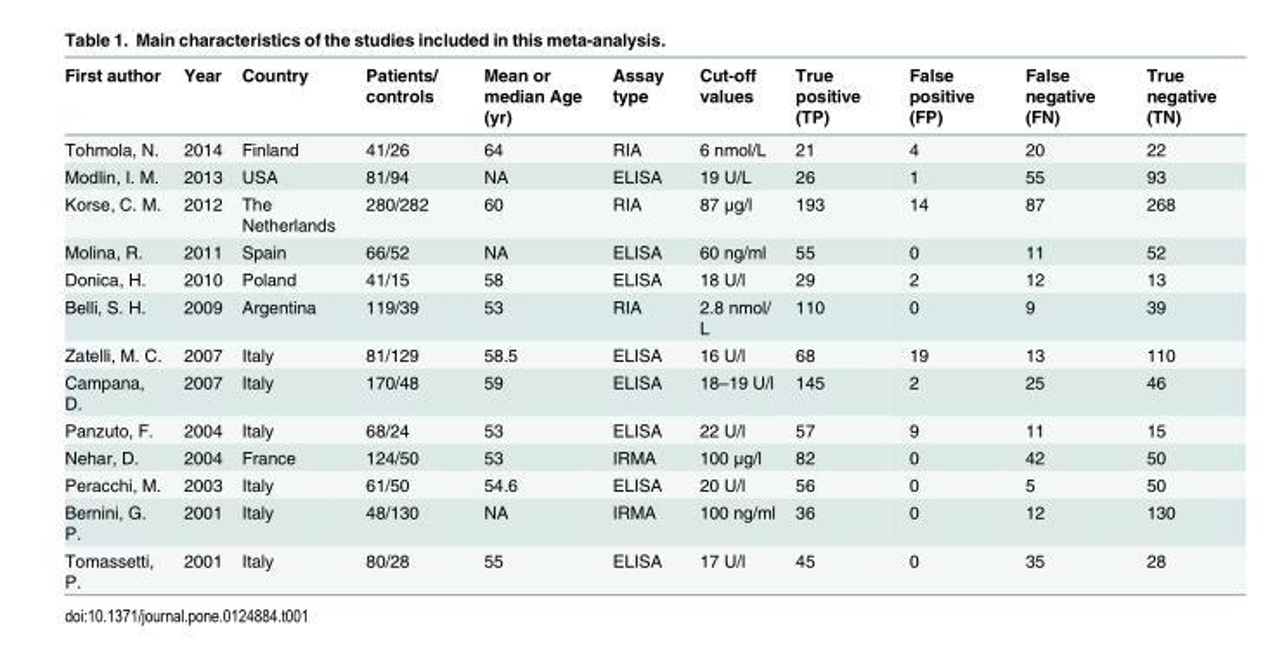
<table><thead><tr><td>First author</td><td>Year</td><td>Country</td><td>Patients/ controls</td><td>Mean or median Age (yr)</td><td>Assay type</td><td>Cut-off values</td><td>True positive (TP)</td><td>False positive (FP)</td><td>False negative (FN)</td><td>True negative (TN)</td></tr></thead><tbody><tr><td>Tohmola, N.</td><td>2014</td><td>Finland</td><td>41/26</td><td>64</td><td>RIA</td><td>6 nmol/L</td><td>21</td><td>4</td><td>20</td><td>22</td></tr><tr><td>Modlin, I. M.</td><td>2013</td><td>USA</td><td>81/94</td><td>NA</td><td>ELISA</td><td>19 U/L</td><td>26</td><td>1</td><td>55</td><td>93</td></tr><tr><td>Korse, C. M.</td><td>2012</td><td>The Netherlands</td><td>280/282</td><td>60</td><td>RIA</td><td>87 μg/l</td><td>193</td><td>14</td><td>87</td><td>268</td></tr><tr><td>Molina, R.</td><td>2011</td><td>Spain</td><td>66/52</td><td>NA</td><td>ELISA</td><td>60 ng/ml</td><td>55</td><td>0</td><td>11</td><td>52</td></tr><tr><td>Donica, H.</td><td>2010</td><td>Poland</td><td>41/15</td><td>58</td><td>ELISA</td><td>18 U/l</td><td>29</td><td>2</td><td>12</td><td>13</td></tr><tr><td>Belli, S. H.</td><td>2009</td><td>Argentina</td><td>119/39</td><td>53</td><td>RIA</td><td>2.8 nmol/ L</td><td>110</td><td>0</td><td>9</td><td>39</td></tr><tr><td>Zatelli, M. C.</td><td>2007</td><td>Italy</td><td>81/129</td><td>58.5</td><td>ELISA</td><td>16 U/l</td><td>68</td><td>19</td><td>13</td><td>110</td></tr><tr><td>Campana, D.</td><td>2007</td><td>Italy</td><td>170/48</td><td>59</td><td>ELISA</td><td>18–19 U/l</td><td>145</td><td>2</td><td>25</td><td>46</td></tr><tr><td>Panzuto, F.</td><td>2004</td><td>Italy</td><td>68/24</td><td>53</td><td>ELISA</td><td>22 U/l</td><td>57</td><td>9</td><td>11</td><td>15</td></tr><tr><td>Nehar, D.</td><td>2004</td><td>France</td><td>124/50</td><td>53</td><td>IRMA</td><td>100 μg/l</td><td>82</td><td>0</td><td>42</td><td>50</td></tr><tr><td>Peracchi, M.</td><td>2003</td><td>Italy</td><td>61/50</td><td>54.6</td><td>ELISA</td><td>20 U/l</td><td>56</td><td>0</td><td>5</td><td>50</td></tr><tr><td>Bernini, G. P.</td><td>2001</td><td>Italy</td><td>48/130</td><td>NA</td><td>IRMA</td><td>100 ng/ml</td><td>36</td><td>0</td><td>12</td><td>130</td></tr><tr><td>Tomassetti, P.</td><td>2001</td><td>Italy</td><td>80/28</td><td>55</td><td>ELISA</td><td>17 U/l</td><td>45</td><td>0</td><td>35</td><td>28</td></tr></tbody></table>